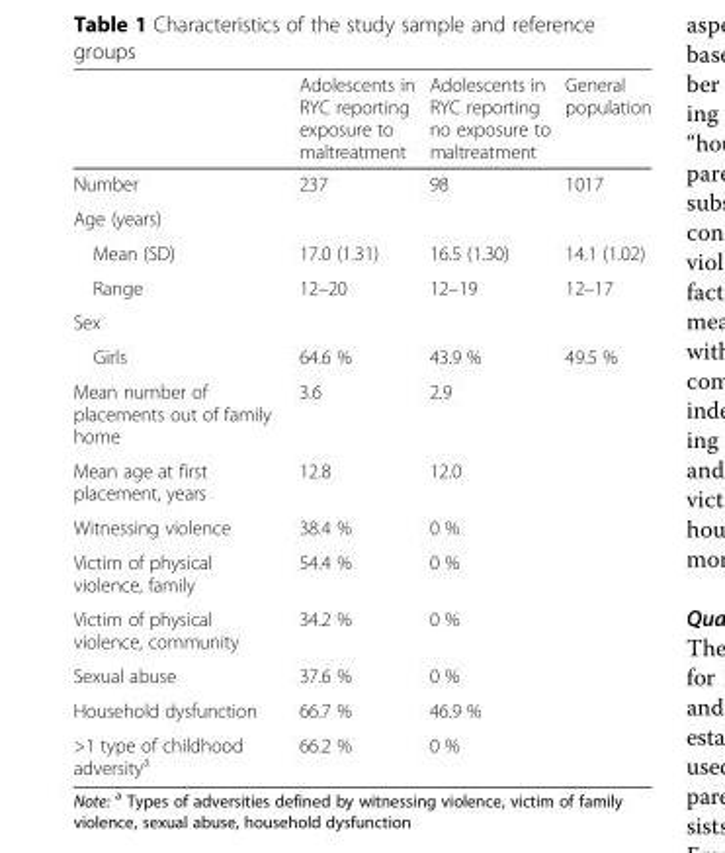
<table><thead><tr><td></td><td>Adolescents in RYC reporting exposure to maltreatment</td><td>Adolescents in RYC reporting no exposure to maltreatment</td><td>General population</td></tr></thead><tbody><tr><td>Number</td><td>237</td><td>98</td><td>1017</td></tr><tr><td colspan="4">Age (years)</td></tr><tr><td>Mean (SD)</td><td>17.0 (1.31)</td><td>16.5 (1.30)</td><td>14.1 (1.02)</td></tr><tr><td>Range</td><td>12–20</td><td>12–19</td><td>12–17</td></tr><tr><td colspan="4">Sex</td></tr><tr><td>Girls</td><td>64.6 %</td><td>43.9 %</td><td>49.5 %</td></tr><tr><td>Mean number of placements out of family home</td><td>3.6</td><td>2.9</td><td></td></tr><tr><td>Mean age at first placement, years</td><td>12.8</td><td>12.0</td><td></td></tr><tr><td>Witnessing violence</td><td>38.4 %</td><td>0 %</td><td></td></tr><tr><td>Victim of physical violence, family</td><td>54.4 %</td><td>0 %</td><td></td></tr><tr><td>Victim of physical violence, community</td><td>34.2 %</td><td>0 %</td><td></td></tr><tr><td>Sexual abuse</td><td>37.6 %</td><td>0 %</td><td></td></tr><tr><td>Household dysfunction</td><td>66.7 %</td><td>46.9 %</td><td></td></tr><tr><td>&gt;1 type of childhood adversity<sup>a</sup></td><td>66.2 %</td><td>0 %</td><td></td></tr></tbody></table>